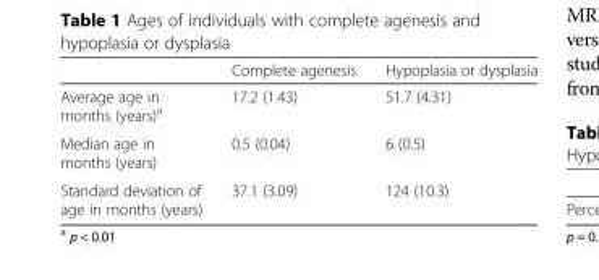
<table><thead><tr><td></td><td>Complete agenesis</td><td>Hypoplasia or dysplasia</td></tr></thead><tbody><tr><td>Average age in months (years)<sup>a</sup></td><td>17.2 (1.43)</td><td>51.7 (4.31)</td></tr><tr><td>Median age in months (years)</td><td>0.5 (0.04)</td><td>6 (0.5)</td></tr><tr><td>Standard deviation of age in months (years)</td><td>37.1 (3.09)</td><td>124 (10.3)</td></tr></tbody></table>